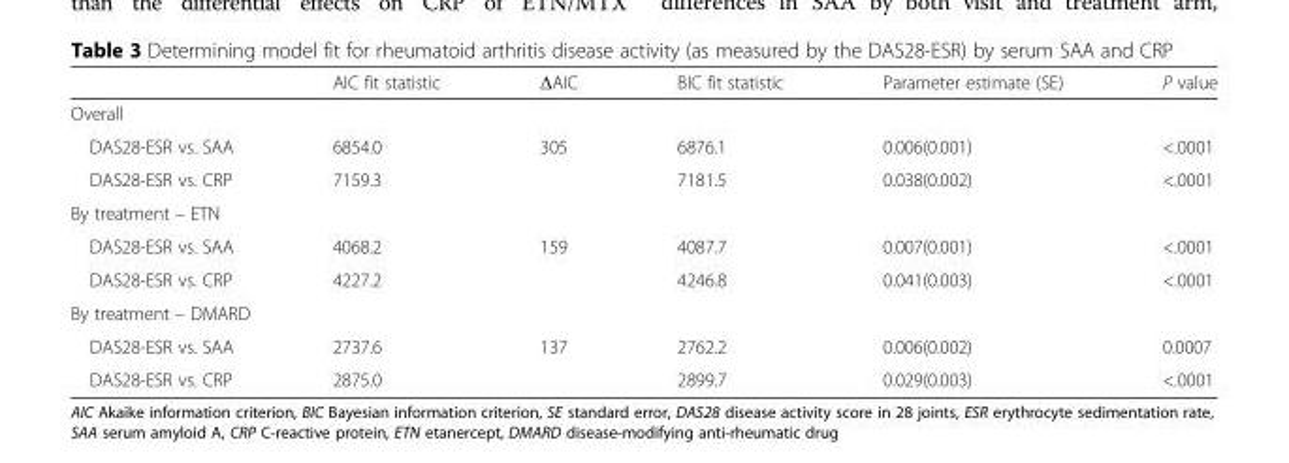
<table><thead><tr><td></td><td>AIC fit statistic</td><td>ΔAIC</td><td>BIC fit statistic</td><td>Parameter estimate (SE)</td><td>P value</td></tr></thead><tbody><tr><td colspan="6">Overall</td></tr><tr><td>DAS28-ESR vs. SAA</td><td>6854.0</td><td>305</td><td>6876.1</td><td>0.006(0.001)</td><td>&lt;.0001</td></tr><tr><td>DAS28-ESR vs. CRP</td><td>7159.3</td><td></td><td>7181.5</td><td>0.038(0.002)</td><td>&lt;.0001</td></tr><tr><td colspan="6">By treatment – ETN</td></tr><tr><td>DAS28-ESR vs. SAA</td><td>4068.2</td><td>159</td><td>4087.7</td><td>0.007(0.001)</td><td>&lt;.0001</td></tr><tr><td>DAS28-ESR vs. CRP</td><td>4227.2</td><td></td><td>4246.8</td><td>0.041(0.003)</td><td>&lt;.0001</td></tr><tr><td colspan="6">By treatment – DMARD</td></tr><tr><td>DAS28-ESR vs. SAA</td><td>2737.6</td><td>137</td><td>2762.2</td><td>0.006(0.002)</td><td>0.0007</td></tr><tr><td>DAS28-ESR vs. CRP</td><td>2875.0</td><td></td><td>2899.7</td><td>0.029(0.003)</td><td>&lt;.0001</td></tr></tbody></table>